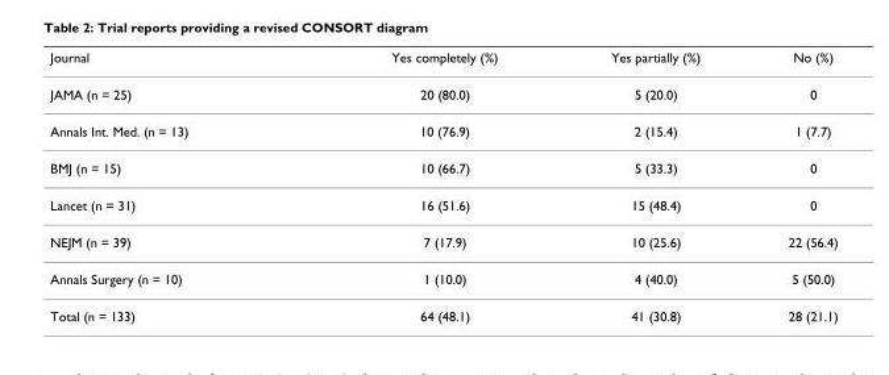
<table><thead><tr><td>Journal</td><td>Yes completely (%)</td><td>Yes partially (%)</td><td>No (%)</td></tr></thead><tbody><tr><td>JAMA (n = 25)</td><td>20 (80.0)</td><td>5 (20.0)</td><td>0</td></tr><tr><td>Annals Int. Med. (n = 13)</td><td>10 (76.9)</td><td>2 (15.4)</td><td>1 (7.7)</td></tr><tr><td>BMJ (n = 15)</td><td>10 (66.7)</td><td>5 (33.3)</td><td>0</td></tr><tr><td>Lancet (n = 31)</td><td>16 (51.6)</td><td>15 (48.4)</td><td>0</td></tr><tr><td>NEJM (n = 39)</td><td>7 (17.9)</td><td>10 (25.6)</td><td>22 (56.4)</td></tr><tr><td>Annals Surgery (n = 10)</td><td>1 (10.0)</td><td>4 (40.0)</td><td>5 (50.0)</td></tr><tr><td>Total (n = 133)</td><td>64 (48.1)</td><td>41 (30.8)</td><td>28 (21.1)</td></tr></tbody></table>